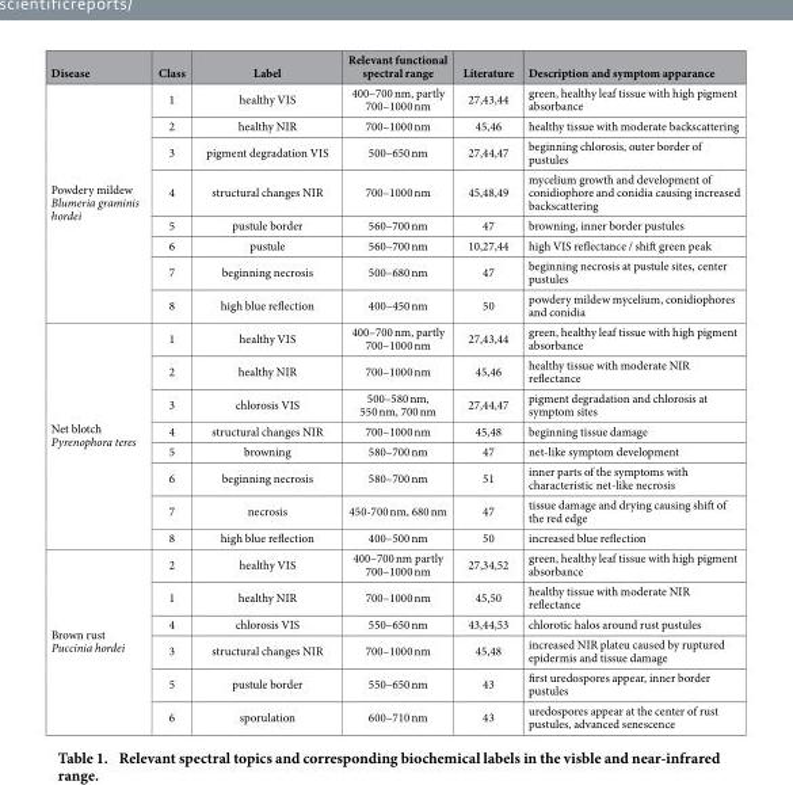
<table><thead><tr><td>Disease</td><td>Class</td><td>Label</td><td>Relevant functional spectral range</td><td>Literature</td><td>Description and symptom apparance</td></tr></thead><tbody><tr><td rowspan="8">Powdery mildew Blumeria graminis hordei</td><td>1</td><td>healthy VIS</td><td>400–700 nm, partly 700–1000 nm</td><td>27,43,44</td><td>green, healthy leaf tissue with high pigment absorbance</td></tr><tr><td>2</td><td>healthy NIR</td><td>700–1000 nm</td><td>45,46</td><td>healthy tissue with moderate backscattering</td></tr><tr><td>3</td><td>pigment degradation VIS</td><td>500–650 nm</td><td>27,44,47</td><td>beginning chlorosis, outer border of pustules</td></tr><tr><td>4</td><td>structural changes NIR</td><td>700–1000 nm</td><td>45,48,49</td><td>mycelium growth and development of conidiophore and conidia causing increased backscattering</td></tr><tr><td>5</td><td>pustule border</td><td>560–700 nm</td><td>47</td><td>browning, inner border pustules</td></tr><tr><td>6</td><td>pustule</td><td>560–700 nm</td><td>10,27,44</td><td>high VIS reflectance / shift green peak</td></tr><tr><td>7</td><td>beginning necrosis</td><td>500–680 nm</td><td>47</td><td>beginning necrosis at pustule sites, center pustules</td></tr><tr><td>8</td><td>high blue reflection</td><td>400–450 nm</td><td>50</td><td>powdery mildew mycelium, conidiophores and conidia</td></tr><tr><td rowspan="8">Net blotch Pyrenophora teres</td><td>1</td><td>healthy VIS</td><td>400–700 nm, partly 700–1000 nm</td><td>27,43,44</td><td>green, healthy leaf tissue with high pigment absorbance</td></tr><tr><td>2</td><td>healthy NIR</td><td>700–1000 nm</td><td>45,46</td><td>healthy tissue with moderate NIR reflectance</td></tr><tr><td>3</td><td>chlorosis VIS</td><td>500–580 nm, 550 nm, 700 nm</td><td>27,44,47</td><td>pigment degradation and chlorosis at symptom sites</td></tr><tr><td>4</td><td>structural changes NIR</td><td>700–1000 nm</td><td>45,48</td><td>beginning tissue damage</td></tr><tr><td>5</td><td>browning</td><td>580–700 nm</td><td>47</td><td>net-like symptom development</td></tr><tr><td>6</td><td>beginning necrosis</td><td>580–700 nm</td><td>51</td><td>inner parts of the symptoms with characteristic net-like necrosis</td></tr><tr><td>7</td><td>necrosis</td><td>450-700 nm, 680 nm</td><td>47</td><td>tissue damage and drying causing shift of the red edge</td></tr><tr><td>8</td><td>high blue reflection</td><td>400–500 nm</td><td>50</td><td>increased blue reflection</td></tr><tr><td rowspan="6">Brown rust Puccinia hordei</td><td>2</td><td>healthy VIS</td><td>400–700 nm partly 700–1000 nm</td><td>27,34,52</td><td>green, healthy leaf tissue with high pigment absorbance</td></tr><tr><td>1</td><td>healthy NIR</td><td>700–1000 nm</td><td>45,50</td><td>healthy tissue with moderate NIR reflectance</td></tr><tr><td>4</td><td>chlorosis VIS</td><td>550–650 nm</td><td>43,44,53</td><td>chlorotic halos around rust pustules</td></tr><tr><td>3</td><td>structural changes NIR</td><td>700–1000 nm</td><td>45,48</td><td>increased NIR plateu caused by ruptured epidermis and tissue damage</td></tr><tr><td>5</td><td>pustule border</td><td>550–650 nm</td><td>43</td><td>first uredospores appear, inner border pustules</td></tr><tr><td>6</td><td>sporulation</td><td>600–710 nm</td><td>43</td><td>uredospores appear at the center of rust pustules, advanced senescence</td></tr></tbody></table>